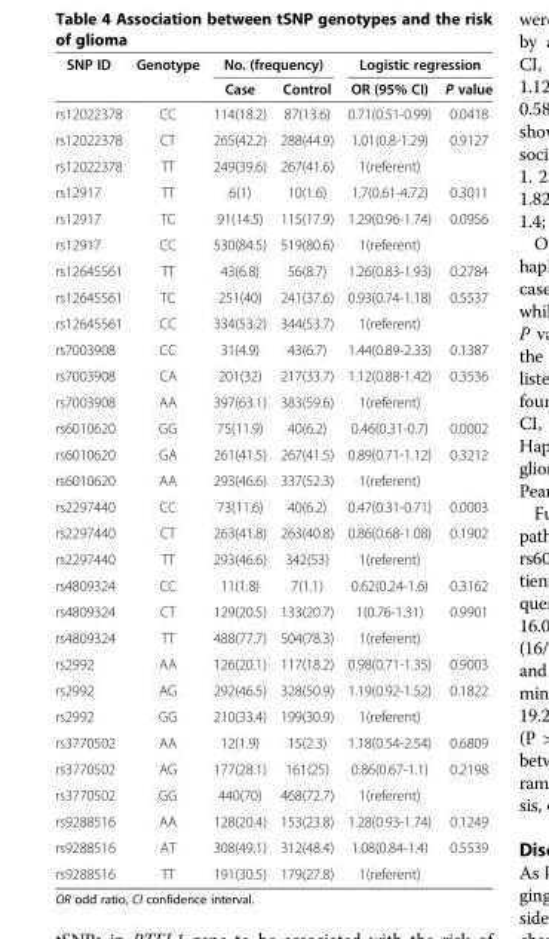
<table><thead><tr><td rowspan="2">SNP ID</td><td rowspan="2">Genotype</td><td colspan="2">No. (frequency)</td><td colspan="2">Logistic regression</td></tr><tr><td>Case</td><td>Control</td><td>OR (95% CI)</td><td>P value</td></tr></thead><tbody><tr><td>rs12022378</td><td>CC</td><td>114(18.2)</td><td>87(13.6)</td><td>0.71(0.51-0.99)</td><td>0.0418</td></tr><tr><td>rs12022378</td><td>CT</td><td>265(42.2)</td><td>288(44.9)</td><td>1.01(0.8-1.29)</td><td>0.9127</td></tr><tr><td>rs12022378</td><td>TT</td><td>249(39.6)</td><td>267(41.6)</td><td>1(referent)</td><td></td></tr><tr><td>rs12917</td><td>TT</td><td>6(1)</td><td>10(1.6)</td><td>1.7(0.61-4.72)</td><td>0.3011</td></tr><tr><td>rs12917</td><td>TC</td><td>91(14.5)</td><td>115(17.9)</td><td>1.29(0.96-1.74)</td><td>0.0956</td></tr><tr><td>rs12917</td><td>CC</td><td>530(84.5)</td><td>519(80.6)</td><td>1(referent)</td><td></td></tr><tr><td>rs12645561</td><td>TT</td><td>43(6.8)</td><td>56(8.7)</td><td>1.26(0.83-1.93)</td><td>0.2784</td></tr><tr><td>rs12645561</td><td>TC</td><td>251(40)</td><td>241(37.6)</td><td>0.93(0.74-1.18)</td><td>0.5537</td></tr><tr><td>rs12645561</td><td>CC</td><td>334(53.2)</td><td>344(53.7)</td><td>1(referent)</td><td></td></tr><tr><td>rs7003908</td><td>CC</td><td>31(4.9)</td><td>43(6.7)</td><td>1.44(0.89-2.33)</td><td>0.1387</td></tr><tr><td>rs7003908</td><td>CA</td><td>201(32)</td><td>217(33.7)</td><td>1.12(0.88-1.42)</td><td>0.3536</td></tr><tr><td>rs7003908</td><td>AA</td><td>397(63.1)</td><td>383(59.6)</td><td>1(referent)</td><td></td></tr><tr><td>rs6010620</td><td>GG</td><td>75(11.9)</td><td>40(6.2)</td><td>0.46(0.31-0.7)</td><td>0.0002</td></tr><tr><td>rs6010620</td><td>GA</td><td>261(41.5)</td><td>267(41.5)</td><td>0.89(0.71-1.12)</td><td>0.3212</td></tr><tr><td>rs6010620</td><td>AA</td><td>293(46.6)</td><td>337(52.3)</td><td>1(referent)</td><td></td></tr><tr><td>rs2297440</td><td>CC</td><td>73(11.6)</td><td>40(6.2)</td><td>0.47(0.31-0.71)</td><td>0.0003</td></tr><tr><td>rs2297440</td><td>CT</td><td>263(41.8)</td><td>263(40.8)</td><td>0.86(0.68-1.08)</td><td>0.1902</td></tr><tr><td>rs2297440</td><td>TT</td><td>293(46.6)</td><td>342(53)</td><td>1(referent)</td><td></td></tr><tr><td>rs4809324</td><td>CC</td><td>11(1.8)</td><td>7(1.1)</td><td>0.62(0.24-1.6)</td><td>0.3162</td></tr><tr><td>rs4809324</td><td>CT</td><td>129(20.5)</td><td>133(20.7)</td><td>1(0.76-1.31)</td><td>0.9901</td></tr><tr><td>rs4809324</td><td>TT</td><td>488(77.7)</td><td>504(78.3)</td><td>1(referent)</td><td></td></tr><tr><td>rs2992</td><td>AA</td><td>126(20.1)</td><td>117(18.2)</td><td>0.98(0.71-1.35)</td><td>0.9003</td></tr><tr><td>rs2992</td><td>AG</td><td>292(46.5)</td><td>328(50.9)</td><td>1.19(0.92-1.52)</td><td>0.1822</td></tr><tr><td>rs2992</td><td>GG</td><td>210(33.4)</td><td>199(30.9)</td><td>1(referent)</td><td></td></tr><tr><td>rs3770502</td><td>AA</td><td>12(1.9)</td><td>15(2.3)</td><td>1.18(0.54-2.54)</td><td>0.6809</td></tr><tr><td>rs3770502</td><td>AG</td><td>177(28.1)</td><td>161(25)</td><td>0.86(0.67-1.1)</td><td>0.2198</td></tr><tr><td>rs3770502</td><td>GG</td><td>440(70)</td><td>468(72.7)</td><td>1(referent)</td><td></td></tr><tr><td>rs9288516</td><td>AA</td><td>128(20.4)</td><td>153(23.8)</td><td>1.28(0.93-1.74)</td><td>0.1249</td></tr><tr><td>rs9288516</td><td>AT</td><td>308(49.1)</td><td>312(48.4)</td><td>1.08(0.84-1.4)</td><td>0.5539</td></tr><tr><td>rs9288516</td><td>TT</td><td>191(30.5)</td><td>179(27.8)</td><td>1(referent)</td><td></td></tr></tbody></table>